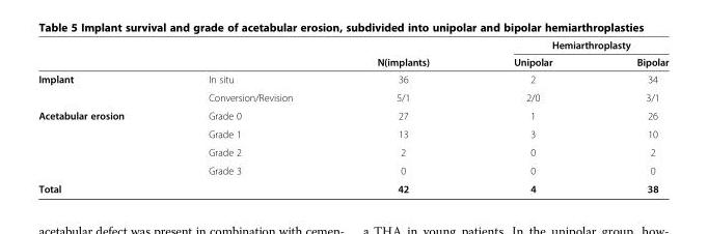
<table><thead><tr><td rowspan="2"></td><td rowspan="2"></td><td rowspan="2">N(implants)</td><td colspan="2">Hemiarthroplasty</td></tr><tr><td>Unipolar</td><td>Bipolar</td></tr></thead><tbody><tr><td rowspan="2">Implant</td><td>In situ</td><td>36</td><td>2</td><td>34</td></tr><tr><td>Conversion/Revision</td><td>5/1</td><td>2/0</td><td>3/1</td></tr><tr><td rowspan="4">Acetabular erosion</td><td>Grade 0</td><td>27</td><td>1</td><td>26</td></tr><tr><td>Grade 1</td><td>13</td><td>3</td><td>10</td></tr><tr><td>Grade 2</td><td>2</td><td>0</td><td>2</td></tr><tr><td>Grade 3</td><td>0</td><td>0</td><td>0</td></tr><tr><td>Total</td><td></td><td>42</td><td>4</td><td>38</td></tr></tbody></table>